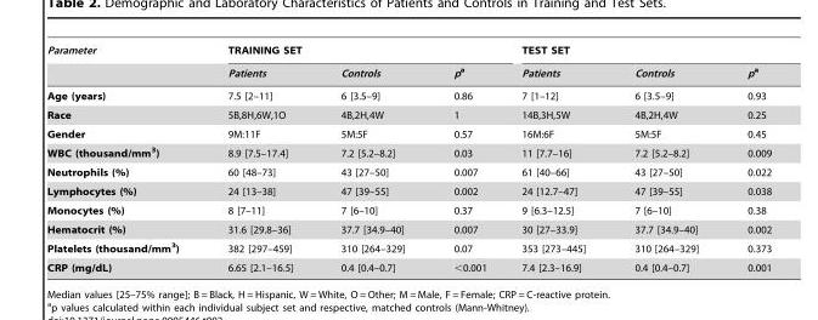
<table><thead><tr><td rowspan="2">Parameter</td><td colspan="3">TRAINING SET</td><td colspan="3">TEST SET</td></tr><tr><td>Patients</td><td>Controls</td><td>pa</td><td>Patients</td><td>Controls</td><td>pa</td></tr></thead><tbody><tr><td>Age (years)</td><td>7.5 [2–11]</td><td>6 [3.5–9]</td><td>0.86</td><td>7 [1–12]</td><td>6 [3.5–9]</td><td>0.93</td></tr><tr><td>Race</td><td>5B,8H,6W,1O</td><td>4B,2H,4W</td><td>1</td><td>14B,3H,5W</td><td>4B,2H,4W</td><td>0.25</td></tr><tr><td>Gender</td><td>9M:11F</td><td>5M:5F</td><td>0.57</td><td>16M:6F</td><td>5M:5F</td><td>0.45</td></tr><tr><td>WBC (thousand/mm<sup>3</sup>)</td><td>8.9 [7.5–17.4]</td><td>7.2 [5.2–8.2]</td><td>0.03</td><td>11 [7.7–16]</td><td>7.2 [5.2–8.2]</td><td>0.009</td></tr><tr><td>Neutrophils (%)</td><td>60 [48–73]</td><td>43 [27–50]</td><td>0.007</td><td>61 [40–66]</td><td>43 [27–50]</td><td>0.022</td></tr><tr><td>Lymphocytes (%)</td><td>24 [13–38]</td><td>47 [39–55]</td><td>0.002</td><td>24 [12.7–47]</td><td>47 [39–55]</td><td>0.038</td></tr><tr><td>Monocytes (%)</td><td>8 [7–11]</td><td>7 [6–10]</td><td>0.37</td><td>9 [6.3–12.5]</td><td>7 [6–10]</td><td>0.38</td></tr><tr><td>Hematocrit (%)</td><td>31.6 [29.8–36]</td><td>37.7 [34.9–40]</td><td>0.007</td><td>30 [27–33.9]</td><td>37.7 [34.9–40]</td><td>0.002</td></tr><tr><td>Platelets (thousand/mm<sup>3</sup>)</td><td>382 [297–459]</td><td>310 [264–329]</td><td>0.07</td><td>353 [273–445]</td><td>310 [264–329]</td><td>0.373</td></tr><tr><td>CRP (mg/dL)</td><td>6.65 [2.1–16.5]</td><td>0.4 [0.4–0.7]</td><td>&lt;0.001</td><td>7.4 [2.3–16.9]</td><td>0.4 [0.4–0.7]</td><td>0.001</td></tr></tbody></table>